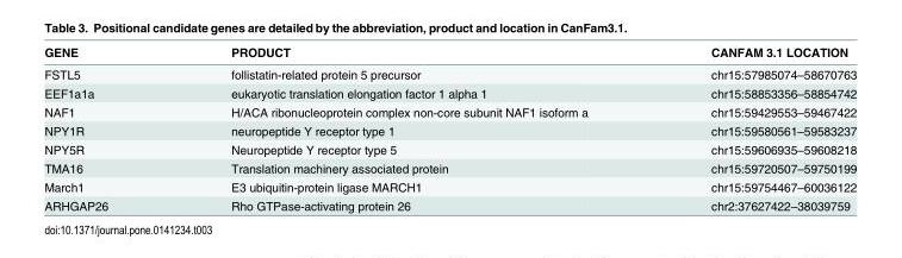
<table><thead><tr><td>GENE</td><td>PRODUCT</td><td>CANFAM 3.1 LOCATION</td></tr></thead><tbody><tr><td>FSTL5</td><td>follistatin-related protein 5 precursor</td><td>chr15:57985074–58670763</td></tr><tr><td>EEF1a1a</td><td>eukaryotic translation elongation factor 1 alpha 1</td><td>chr15:58853356–58854742</td></tr><tr><td>NAF1</td><td>H/ACA ribonucleoprotein complex non-core subunit NAF1 isoform a</td><td>chr15:59429553–59467422</td></tr><tr><td>NPY1R</td><td>neuropeptide Y receptor type 1</td><td>chr15:59580561–59583237</td></tr><tr><td>NPY5R</td><td>Neuropeptide Y receptor type 5</td><td>chr15:59606935–59608218</td></tr><tr><td>TMA16</td><td>Translation machinery associated protein</td><td>chr15:59720507–59750199</td></tr><tr><td>March1</td><td>E3 ubiquitin-protein ligase MARCH1</td><td>chr15:59754467–60036122</td></tr><tr><td>ARHGAP26</td><td>Rho GTPase-activating protein 26</td><td>chr2:37627422–38039759</td></tr></tbody></table>